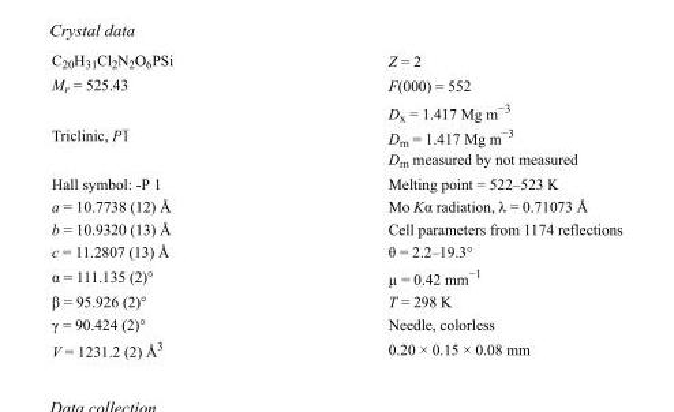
<table><tbody><tr><td>C<sub>20</sub>H<sub>31</sub>Cl<sub>2</sub>N<sub>2</sub>O<sub>6</sub>PSi</td><td>Z = 2</td></tr><tr><td>M<sub>r</sub> = 525.43</td><td>F(000) = 552</td></tr><tr><td>Triclinic, P1</td><td>D<sub>x</sub> = 1.417 Mg m<sup>−3</sup> D<sub>m</sub> = 1.417 Mg m<sup>−3</sup> D<sub>m</sub> measured by not measured</td></tr><tr><td>Hall symbol: -P 1</td><td>Melting point = 522–523 K</td></tr><tr><td>a = 10.7738 (12) Å</td><td>Mo Kα radiation, λ = 0.71073 Å</td></tr><tr><td>b = 10.9320 (13) Å</td><td>Cell parameters from 1174 reflections</td></tr><tr><td>c = 11.2807 (13) Å</td><td>θ = 2.2–19.3°</td></tr><tr><td>α = 111.135 (2)°</td><td>µ = 0.42 mm<sup>−1</sup></td></tr><tr><td>β = 95.926 (2)°</td><td>T = 298 K</td></tr><tr><td>γ = 90.424 (2)°</td><td>Needle, colorless</td></tr><tr><td>V = 1231.2 (2) Å<sup>3</sup></td><td>0.20 × 0.15 × 0.08 mm</td></tr></tbody></table>